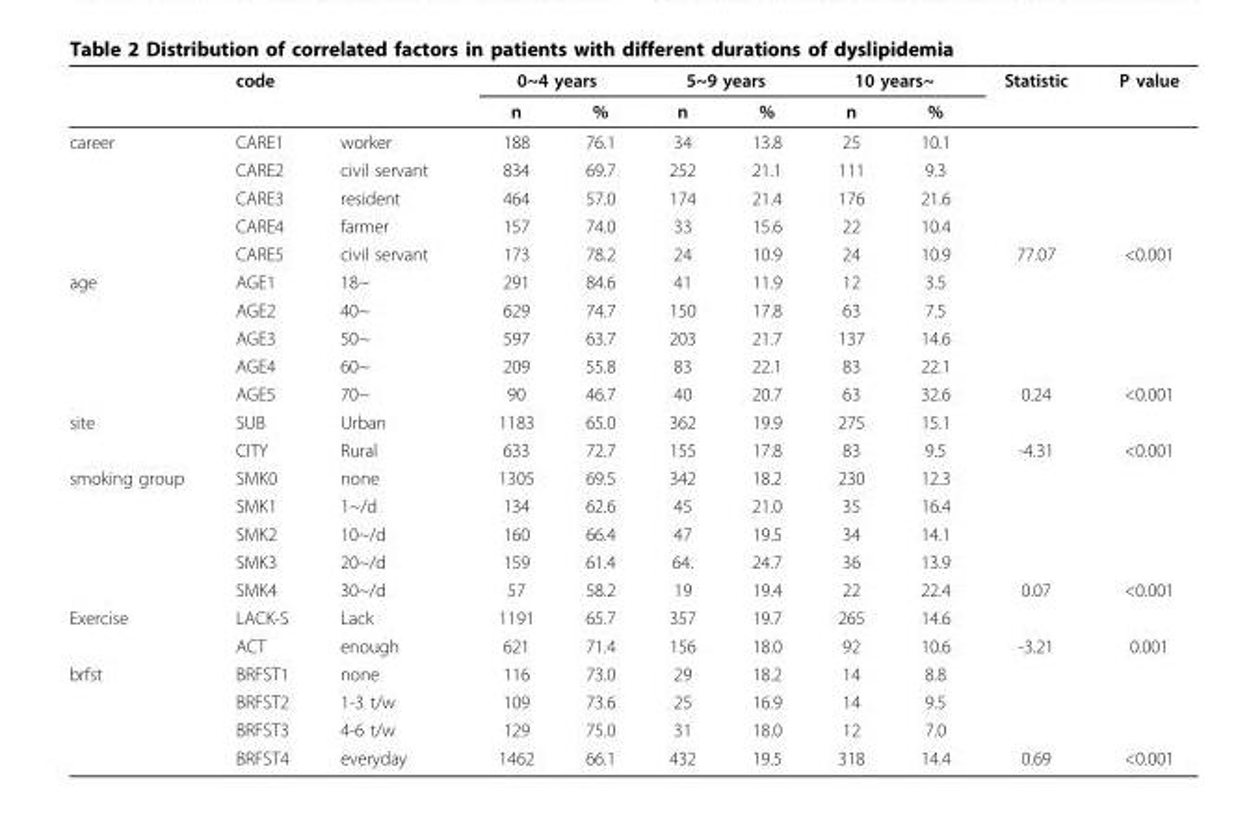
<table><thead><tr><td rowspan="2"></td><td rowspan="2">code</td><td rowspan="2"></td><td colspan="2">0~4 years</td><td colspan="2">5~9 years</td><td colspan="2">10 years~</td><td rowspan="2">Statistic</td><td rowspan="2">P value</td></tr><tr><td>n</td><td>%</td><td>n</td><td>%</td><td>n</td><td>%</td></tr></thead><tbody><tr><td rowspan="5">career</td><td>CARE1</td><td>worker</td><td>188</td><td>76.1</td><td>34</td><td>13.8</td><td>25</td><td>10.1</td><td></td><td></td></tr><tr><td>CARE2</td><td>civil servant</td><td>834</td><td>69.7</td><td>252</td><td>21.1</td><td>111</td><td>9.3</td><td></td><td></td></tr><tr><td>CARE3</td><td>resident</td><td>464</td><td>57.0</td><td>174</td><td>21.4</td><td>176</td><td>21.6</td><td></td><td></td></tr><tr><td>CARE4</td><td>farmer</td><td>157</td><td>74.0</td><td>33</td><td>15.6</td><td>22</td><td>10.4</td><td></td><td></td></tr><tr><td>CARE5</td><td>civil servant</td><td>173</td><td>78.2</td><td>24</td><td>10.9</td><td>24</td><td>10.9</td><td>77.07</td><td>&lt;0.001</td></tr><tr><td rowspan="5">age</td><td>AGE1</td><td>18~</td><td>291</td><td>84.6</td><td>41</td><td>11.9</td><td>12</td><td>3.5</td><td></td><td></td></tr><tr><td>AGE2</td><td>40~</td><td>629</td><td>74.7</td><td>150</td><td>17.8</td><td>63</td><td>7.5</td><td></td><td></td></tr><tr><td>AGE3</td><td>50~</td><td>597</td><td>63.7</td><td>203</td><td>21.7</td><td>137</td><td>14.6</td><td></td><td></td></tr><tr><td>AGE4</td><td>60~</td><td>209</td><td>55.8</td><td>83</td><td>22.1</td><td>83</td><td>22.1</td><td></td><td></td></tr><tr><td>AGE5</td><td>70~</td><td>90</td><td>46.7</td><td>40</td><td>20.7</td><td>63</td><td>32.6</td><td>0.24</td><td>&lt;0.001</td></tr><tr><td rowspan="2">site</td><td>SUB</td><td>Urban</td><td>1183</td><td>65.0</td><td>362</td><td>19.9</td><td>275</td><td>15.1</td><td></td><td></td></tr><tr><td>CITY</td><td>Rural</td><td>633</td><td>72.7</td><td>155</td><td>17.8</td><td>83</td><td>9.5</td><td>-4.31</td><td>&lt;0.001</td></tr><tr><td rowspan="5">smoking group</td><td>SMK0</td><td>none</td><td>1305</td><td>69.5</td><td>342</td><td>18.2</td><td>230</td><td>12.3</td><td></td><td></td></tr><tr><td>SMK1</td><td>1~/d</td><td>134</td><td>62.6</td><td>45</td><td>21.0</td><td>35</td><td>16.4</td><td></td><td></td></tr><tr><td>SMK2</td><td>10~/d</td><td>160</td><td>66.4</td><td>47</td><td>19.5</td><td>34</td><td>14.1</td><td></td><td></td></tr><tr><td>SMK3</td><td>20~/d</td><td>159</td><td>61.4</td><td>64.</td><td>24.7</td><td>36</td><td>13.9</td><td></td><td></td></tr><tr><td>SMK4</td><td>30~/d</td><td>57</td><td>58.2</td><td>19</td><td>19.4</td><td>22</td><td>22.4</td><td>0.07</td><td>&lt;0.001</td></tr><tr><td rowspan="2">Exercise</td><td>LACK-S</td><td>Lack</td><td>1191</td><td>65.7</td><td>357</td><td>19.7</td><td>265</td><td>14.6</td><td></td><td></td></tr><tr><td>ACT</td><td>enough</td><td>621</td><td>71.4</td><td>156</td><td>18.0</td><td>92</td><td>10.6</td><td>-3.21</td><td>0.001</td></tr><tr><td rowspan="4">brfst</td><td>BRFST1</td><td>none</td><td>116</td><td>73.0</td><td>29</td><td>18.2</td><td>14</td><td>8.8</td><td></td><td></td></tr><tr><td>BRFST2</td><td>1-3 t/w</td><td>109</td><td>73.6</td><td>25</td><td>16.9</td><td>14</td><td>9.5</td><td></td><td></td></tr><tr><td>BRFST3</td><td>4-6 t/w</td><td>129</td><td>75.0</td><td>31</td><td>18.0</td><td>12</td><td>7.0</td><td></td><td></td></tr><tr><td>BRFST4</td><td>everyday</td><td>1462</td><td>66.1</td><td>432</td><td>19.5</td><td>318</td><td>14.4</td><td>0.69</td><td>&lt;0.001</td></tr></tbody></table>